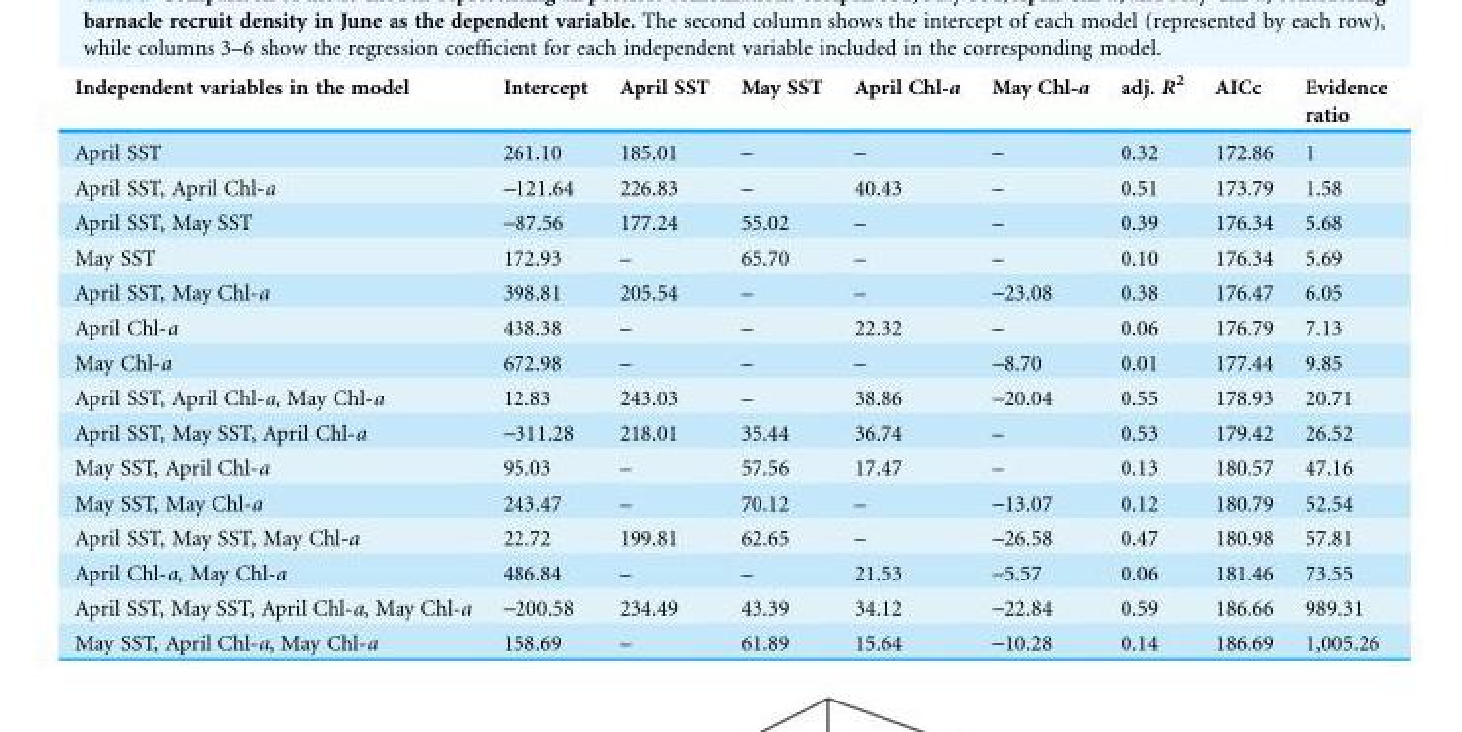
<table><thead><tr><td>Independent variables in the model</td><td>Intercept</td><td>April SST</td><td>May SST</td><td>April Chl-a</td><td>May Chl-a</td><td>adj. R<sup>2</sup></td><td>AICc</td><td>Evidence ratio</td></tr></thead><tbody><tr><td>April SST</td><td>261.10</td><td>185.01</td><td>–</td><td>–</td><td>–</td><td>0.32</td><td>172.86</td><td>1</td></tr><tr><td>April SST, April Chl-a</td><td>-121.64</td><td>226.83</td><td>–</td><td>40.43</td><td>–</td><td>0.51</td><td>173.79</td><td>1.58</td></tr><tr><td>April SST, May SST</td><td>-87.56</td><td>177.24</td><td>55.02</td><td>–</td><td>–</td><td>0.39</td><td>176.34</td><td>5.68</td></tr><tr><td>May SST</td><td>172.93</td><td>–</td><td>65.70</td><td>–</td><td>–</td><td>0.10</td><td>176.34</td><td>5.69</td></tr><tr><td>April SST, May Chl-a</td><td>398.81</td><td>205.54</td><td>–</td><td>–</td><td>-23.08</td><td>0.38</td><td>176.47</td><td>6.05</td></tr><tr><td>April Chl-a</td><td>438.38</td><td>–</td><td>–</td><td>22.32</td><td>–</td><td>0.06</td><td>176.79</td><td>7.13</td></tr><tr><td>May Chl-a</td><td>672.98</td><td>–</td><td>–</td><td>–</td><td>-8.70</td><td>0.01</td><td>177.44</td><td>9.85</td></tr><tr><td>April SST, April Chl-a, May Chl-a</td><td>12.83</td><td>243.03</td><td>–</td><td>38.86</td><td>-20.04</td><td>0.55</td><td>178.93</td><td>20.71</td></tr><tr><td>April SST, May SST, April Chl-a</td><td>-311.28</td><td>218.01</td><td>35.44</td><td>36.74</td><td>–</td><td>0.53</td><td>179.42</td><td>26.52</td></tr><tr><td>May SST, April Chl-a</td><td>95.03</td><td>–</td><td>57.56</td><td>17.47</td><td>–</td><td>0.13</td><td>180.57</td><td>47.16</td></tr><tr><td>May SST, May Chl-a</td><td>243.47</td><td>–</td><td>70.12</td><td>–</td><td>-13.07</td><td>0.12</td><td>180.79</td><td>52.54</td></tr><tr><td>April SST, May SST, May Chl-a</td><td>22.72</td><td>199.81</td><td>62.65</td><td>–</td><td>-26.58</td><td>0.47</td><td>180.98</td><td>57.81</td></tr><tr><td>April Chl-a, May Chl-a</td><td>486.84</td><td>–</td><td>–</td><td>21.53</td><td>-5.57</td><td>0.06</td><td>181.46</td><td>73.55</td></tr><tr><td>April SST, May SST, April Chl-a, May Chl-a</td><td>-200.58</td><td>234.49</td><td>43.39</td><td>34.12</td><td>-22.84</td><td>0.59</td><td>186.66</td><td>989.31</td></tr><tr><td>May SST, April Chl-a, May Chl-a</td><td>158.69</td><td>–</td><td>61.89</td><td>15.64</td><td>-10.28</td><td>0.14</td><td>186.69</td><td>1,005.26</td></tr></tbody></table>